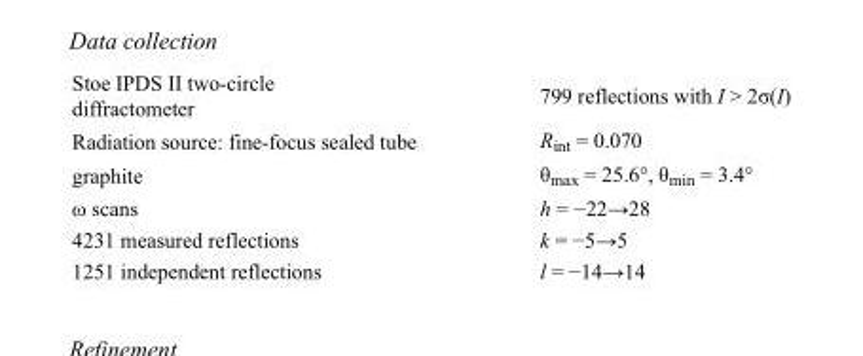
<table><tbody><tr><td>Stoe IPDS II two-circle diffractometer</td><td>799 reflections with I &gt; 2σ(I)</td></tr><tr><td>Radiation source: fine-focus sealed tube</td><td>R<sub>int</sub> = 0.070</td></tr><tr><td>graphite</td><td>θ<sub>max</sub> = 25.6°, θ<sub>min</sub> = 3.4°</td></tr><tr><td>ω scans</td><td>h = −22→28</td></tr><tr><td>4231 measured reflections</td><td>k = −5→5</td></tr><tr><td>1251 independent reflections</td><td>l = −14→14</td></tr></tbody></table>